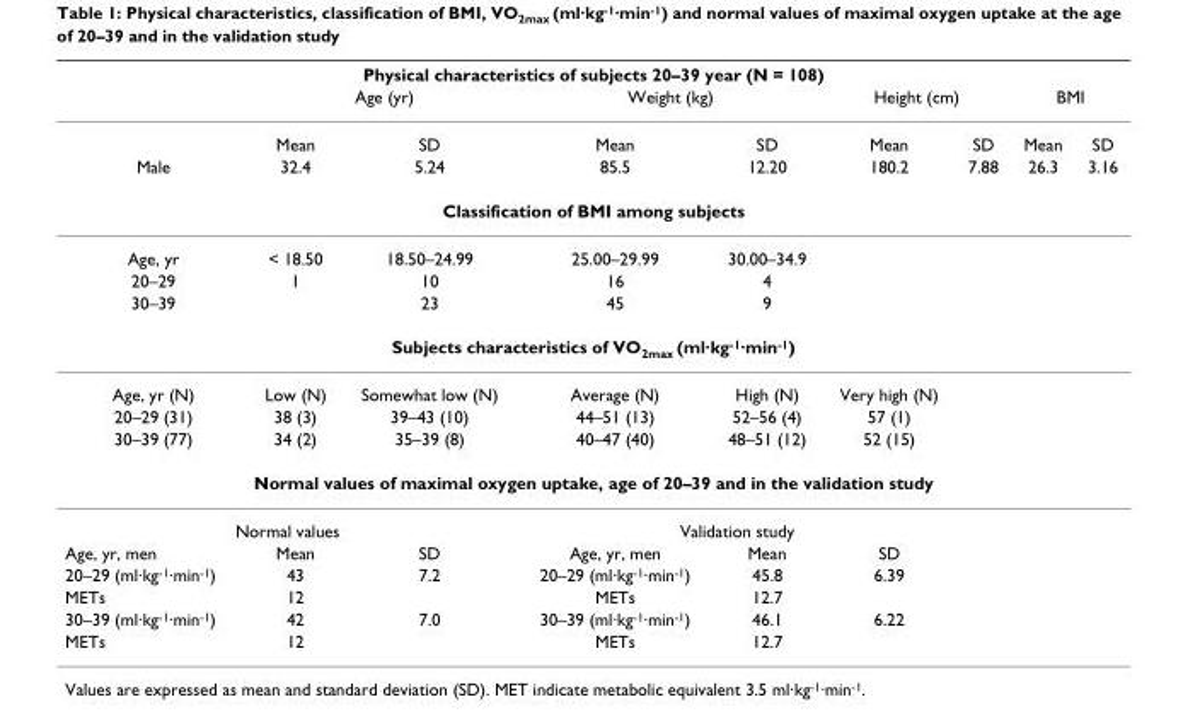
<table><thead><tr><td colspan="9">Physical characteristics of subjects 20–39 year (N = 108)</td></tr><tr><td rowspan="2"></td><td colspan="2">Age (yr)</td><td colspan="2">Weight (kg)</td><td colspan="2">Height (cm)</td><td colspan="2">BMI</td></tr><tr><td>Mean</td><td>SD</td><td>Mean</td><td>SD</td><td>Mean</td><td>SD</td><td>Mean</td><td>SD</td></tr></thead><tbody><tr><td>Male</td><td>32.4</td><td>5.24</td><td>85.5</td><td>12.20</td><td>180.2</td><td>7.88</td><td>26.3</td><td>3.16</td></tr><tr><td colspan="9">Classification of BMI among subjects</td></tr><tr><td>Age, yr</td><td>&lt; 18.50</td><td>18.50–24.99</td><td>25.00–29.99</td><td>30.00–34.9</td><td></td><td></td><td></td><td></td></tr><tr><td>20–29</td><td>1</td><td>10</td><td>16</td><td>4</td><td></td><td></td><td></td><td></td></tr><tr><td>30–39</td><td></td><td>23</td><td>45</td><td>9</td><td></td><td></td><td></td><td></td></tr><tr><td colspan="9">Subjects characteristics of VO<sub>2max</sub> (ml·kg<sup>-1</sup>·min<sup>-1</sup>)</td></tr><tr><td>Age, yr (N)</td><td>Low (N)</td><td>Somewhat low (N)</td><td>Average (N)</td><td>High (N)</td><td>Very high (N)</td><td></td><td></td><td></td></tr><tr><td>20–29 (31)</td><td>38 (3)</td><td>39–43 (10)</td><td>44–51 (13)</td><td>52–56 (4)</td><td>57 (1)</td><td></td><td></td><td></td></tr><tr><td>30–39 (77)</td><td>34 (2)</td><td>35–39 (8)</td><td>40–47 (40)</td><td>48–51 (12)</td><td>52 (15)</td><td></td><td></td><td></td></tr><tr><td colspan="9">Normal values of maximal oxygen uptake, age of 20–39 and in the validation study</td></tr><tr><td colspan="3">Normal values</td><td colspan="3">Validation study</td><td></td><td></td><td></td></tr><tr><td>Age, yr, men</td><td>Mean</td><td>SD</td><td>Age, yr, men</td><td>Mean</td><td>SD</td><td></td><td></td><td></td></tr><tr><td>20–29 (ml·kg<sup>-1</sup>·min<sup>-1</sup>)</td><td>43</td><td>7.2</td><td>20–29 (ml·kg<sup>-1</sup>·min<sup>-1</sup>)</td><td>45.8</td><td>6.39</td><td></td><td></td><td></td></tr><tr><td>METs</td><td>12</td><td></td><td>METs</td><td>12.7</td><td></td><td></td><td></td><td></td></tr><tr><td>30–39 (ml·kg<sup>-1</sup>·min<sup>-1</sup>)</td><td>42</td><td>7.0</td><td>30–39 (ml·kg<sup>-1</sup>·min<sup>-1</sup>)</td><td>46.1</td><td>6.22</td><td></td><td></td><td></td></tr><tr><td>METs</td><td>12</td><td></td><td>METs</td><td>12.7</td><td></td><td></td><td></td><td></td></tr></tbody></table>